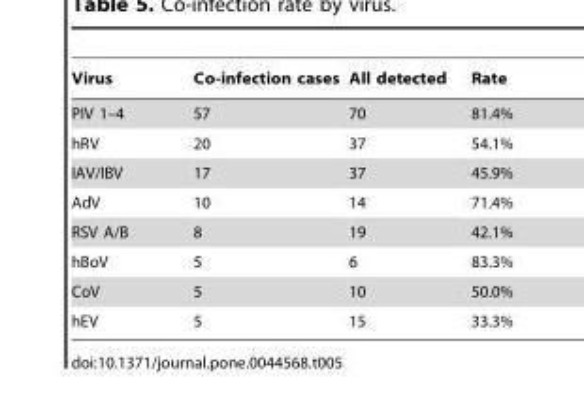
<table><thead><tr><td>Virus</td><td>Co-infection cases</td><td>All detected</td><td>Rate</td></tr></thead><tbody><tr><td>PIV 1–4</td><td>57</td><td>70</td><td>81.4%</td></tr><tr><td>hRV</td><td>20</td><td>37</td><td>54.1%</td></tr><tr><td>IAV/IBV</td><td>17</td><td>37</td><td>45.9%</td></tr><tr><td>AdV</td><td>10</td><td>14</td><td>71.4%</td></tr><tr><td>RSV A/B</td><td>8</td><td>19</td><td>42.1%</td></tr><tr><td>hBoV</td><td>5</td><td>6</td><td>83.3%</td></tr><tr><td>CoV</td><td>5</td><td>10</td><td>50.0%</td></tr><tr><td>hEV</td><td>5</td><td>15</td><td>33.3%</td></tr></tbody></table>